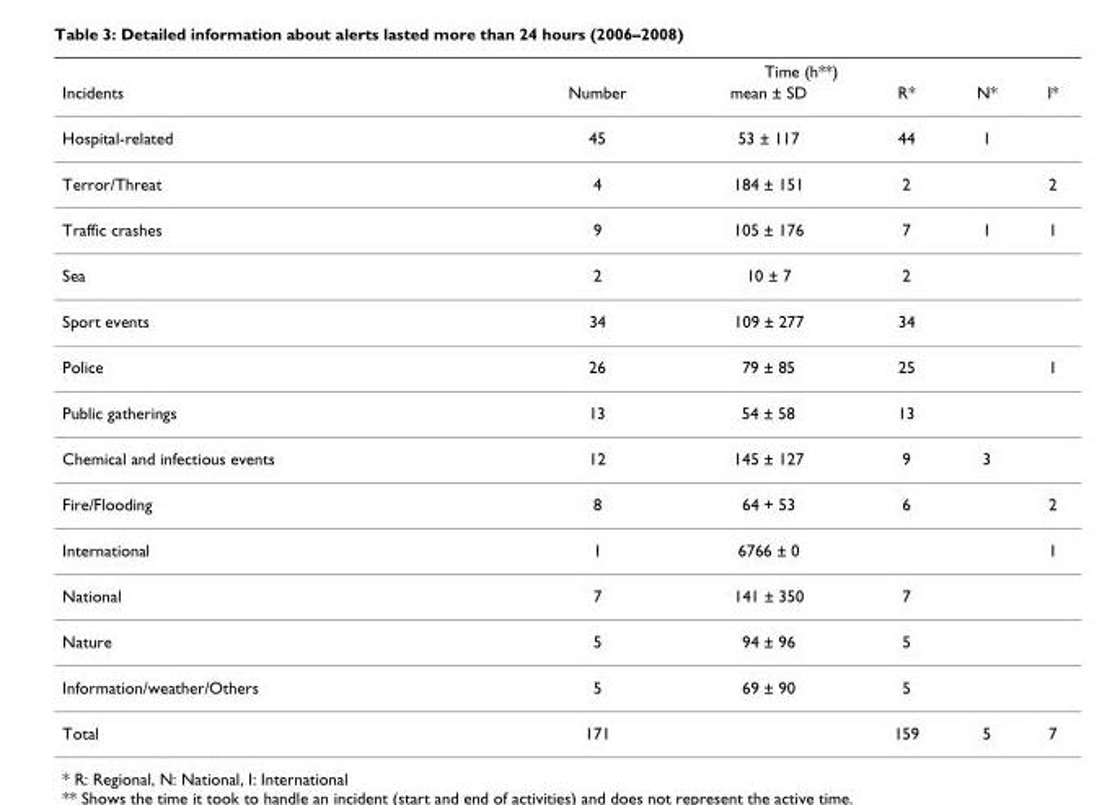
<table><thead><tr><td rowspan="2">Incidents</td><td colspan="5">Time (h**)</td></tr><tr><td>Number</td><td>mean ± SD</td><td>R*</td><td>N*</td><td>I*</td></tr></thead><tbody><tr><td>Hospital-related</td><td>45</td><td>53 ± 117</td><td>44</td><td>1</td><td></td></tr><tr><td>Terror/Threat</td><td>4</td><td>184 ± 151</td><td>2</td><td></td><td>2</td></tr><tr><td>Traffic crashes</td><td>9</td><td>105 ± 176</td><td>7</td><td>1</td><td>1</td></tr><tr><td>Sea</td><td>2</td><td>10 ± 7</td><td>2</td><td></td><td></td></tr><tr><td>Sport events</td><td>34</td><td>109 ± 277</td><td>34</td><td></td><td></td></tr><tr><td>Police</td><td>26</td><td>79 ± 85</td><td>25</td><td></td><td>1</td></tr><tr><td>Public gatherings</td><td>13</td><td>54 ± 58</td><td>13</td><td></td><td></td></tr><tr><td>Chemical and infectious events</td><td>12</td><td>145 ± 127</td><td>9</td><td>3</td><td></td></tr><tr><td>Fire/Flooding</td><td>8</td><td>64 + 53</td><td>6</td><td></td><td>2</td></tr><tr><td>International</td><td>1</td><td>6766 ± 0</td><td></td><td></td><td>1</td></tr><tr><td>National</td><td>7</td><td>141 ± 350</td><td>7</td><td></td><td></td></tr><tr><td>Nature</td><td>5</td><td>94 ± 96</td><td>5</td><td></td><td></td></tr><tr><td>Information/weather/Others</td><td>5</td><td>69 ± 90</td><td>5</td><td></td><td></td></tr><tr><td>Total</td><td>171</td><td></td><td>159</td><td>5</td><td>7</td></tr></tbody></table>